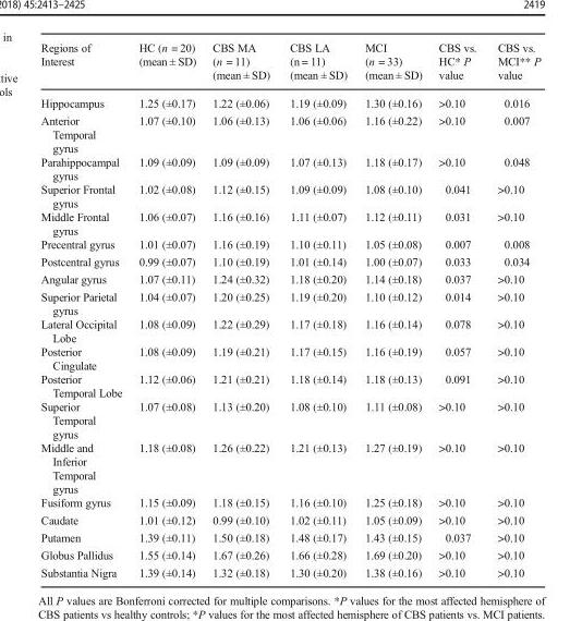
<table><thead><tr><td>Regions of Interest</td><td>HC (n = 20) (mean ± SD)</td><td>CBS MA (n = 11) (mean ± SD)</td><td>CBS LA (n = 11) (mean ± SD)</td><td>MCI (n = 33) (mean ± SD)</td><td>CBS vs. HC* P value</td><td>CBS vs. MCI** P value</td></tr></thead><tbody><tr><td>Hippocampus</td><td>1.25 (±0.17)</td><td>1.22 (±0.06)</td><td>1.19 (±0.09)</td><td>1.30 (±0.16)</td><td>&gt;0.10</td><td>0.016</td></tr><tr><td>Anterior Temporal gyrus</td><td>1.07 (±0.10)</td><td>1.06 (±0.13)</td><td>1.06 (±0.06)</td><td>1.16 (±0.22)</td><td>&gt;0.10</td><td>0.007</td></tr><tr><td>Parahippocampal gyrus</td><td>1.09 (±0.09)</td><td>1.09 (±0.09)</td><td>1.07 (±0.13)</td><td>1.18 (±0.17)</td><td>&gt;0.10</td><td>0.048</td></tr><tr><td>Superior Frontal gyrus</td><td>1.02 (±0.08)</td><td>1.12 (±0.15)</td><td>1.09 (±0.09)</td><td>1.08 (±0.10)</td><td>0.041</td><td>&gt;0.10</td></tr><tr><td>Middle Frontal gyrus</td><td>1.06 (±0.07)</td><td>1.16 (±0.16)</td><td>1.11 (±0.07)</td><td>1.12 (±0.11)</td><td>0.031</td><td>&gt;0.10</td></tr><tr><td>Precentral gyrus</td><td>1.01 (±0.07)</td><td>1.16 (±0.19)</td><td>1.10 (±0.11)</td><td>1.05 (±0.08)</td><td>0.007</td><td>0.008</td></tr><tr><td>Postcentral gyrus</td><td>0.99 (±0.07)</td><td>1.10 (±0.19)</td><td>1.01 (±0.14)</td><td>1.00 (±0.07)</td><td>0.033</td><td>0.034</td></tr><tr><td>Angular gyrus</td><td>1.07 (±0.11)</td><td>1.24 (±0.32)</td><td>1.18 (±0.20)</td><td>1.14 (±0.18)</td><td>0.037</td><td>&gt;0.10</td></tr><tr><td>Superior Parietal gyrus</td><td>1.04 (±0.07)</td><td>1.20 (±0.25)</td><td>1.19 (±0.20)</td><td>1.10 (±0.12)</td><td>0.014</td><td>&gt;0.10</td></tr><tr><td>Lateral Occipital Lobe</td><td>1.08 (±0.09)</td><td>1.22 (±0.29)</td><td>1.17 (±0.18)</td><td>1.16 (±0.14)</td><td>0.078</td><td>&gt;0.10</td></tr><tr><td>Posterior Cingulate</td><td>1.08 (±0.09)</td><td>1.19 (±0.21)</td><td>1.17 (±0.15)</td><td>1.16 (±0.19)</td><td>0.057</td><td>&gt;0.10</td></tr><tr><td>Posterior Temporal Lobe</td><td>1.12 (±0.06)</td><td>1.21 (±0.21)</td><td>1.18 (±0.14)</td><td>1.18 (±0.13)</td><td>0.091</td><td>&gt;0.10</td></tr><tr><td>Superior Temporal gyrus</td><td>1.07 (±0.08)</td><td>1.13 (±0.20)</td><td>1.08 (±0.10)</td><td>1.11 (±0.08)</td><td>&gt;0.10</td><td>&gt;0.10</td></tr><tr><td>Middle and Inferior Temporal gyrus</td><td>1.18 (±0.08)</td><td>1.26 (±0.22)</td><td>1.21 (±0.13)</td><td>1.27 (±0.19)</td><td>&gt;0.10</td><td>&gt;0.10</td></tr><tr><td>Fusiform gyrus</td><td>1.15 (±0.09)</td><td>1.18 (±0.15)</td><td>1.16 (±0.10)</td><td>1.25 (±0.18)</td><td>&gt;0.10</td><td>&gt;0.10</td></tr><tr><td>Caudate</td><td>1.01 (±0.12)</td><td>0.99 (±0.10)</td><td>1.02 (±0.11)</td><td>1.05 (±0.09)</td><td>&gt;0.10</td><td>&gt;0.10</td></tr><tr><td>Putamen</td><td>1.39 (±0.11)</td><td>1.50 (±0.18)</td><td>1.48 (±0.17)</td><td>1.43 (±0.15)</td><td>0.037</td><td>&gt;0.10</td></tr><tr><td>Globus Pallidus</td><td>1.55 (±0.14)</td><td>1.67 (±0.26)</td><td>1.66 (±0.28)</td><td>1.69 (±0.20)</td><td>&gt;0.10</td><td>&gt;0.10</td></tr><tr><td>Substantia Nigra</td><td>1.39 (±0.14)</td><td>1.32 (±0.18)</td><td>1.30 (±0.20)</td><td>1.38 (±0.16)</td><td>&gt;0.10</td><td>&gt;0.10</td></tr></tbody></table>